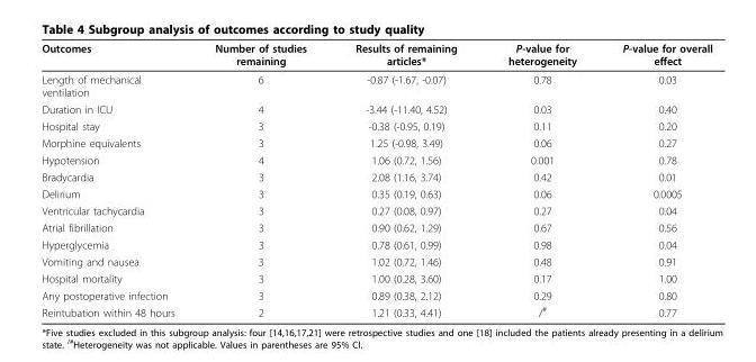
<table><thead><tr><td>Outcomes</td><td>Number of studies remaining</td><td>Results of remaining articles*</td><td>P-value for heterogeneity</td><td>P-value for overall effect</td></tr></thead><tbody><tr><td>Length of mechanical ventilation</td><td>6</td><td>-0.87 (-1.67, -0.07)</td><td>0.78</td><td>0.03</td></tr><tr><td>Duration in ICU</td><td>4</td><td>-3.44 (-11.40, 4.52)</td><td>0.03</td><td>0.40</td></tr><tr><td>Hospital stay</td><td>3</td><td>-0.38 (-0.95, 0.19)</td><td>0.11</td><td>0.20</td></tr><tr><td>Morphine equivalents</td><td>3</td><td>1.25 (-0.98, 3.49)</td><td>0.06</td><td>0.27</td></tr><tr><td>Hypotension</td><td>4</td><td>1.06 (0.72, 1.56)</td><td>0.001</td><td>0.78</td></tr><tr><td>Bradycardia</td><td>3</td><td>2.08 (1.16, 3.74)</td><td>0.42</td><td>0.01</td></tr><tr><td>Delirium</td><td>3</td><td>0.35 (0.19, 0.63)</td><td>0.06</td><td>0.0005</td></tr><tr><td>Ventricular tachycardia</td><td>3</td><td>0.27 (0.08, 0.97)</td><td>0.27</td><td>0.04</td></tr><tr><td>Atrial fibrillation</td><td>3</td><td>0.90 (0.62, 1.29)</td><td>0.67</td><td>0.56</td></tr><tr><td>Hyperglycemia</td><td>3</td><td>0.78 (0.61, 0.99)</td><td>0.98</td><td>0.04</td></tr><tr><td>Vomiting and nausea</td><td>3</td><td>1.02 (0.72, 1.46)</td><td>0.48</td><td>0.91</td></tr><tr><td>Hospital mortality</td><td>3</td><td>1.00 (0.28, 3.60)</td><td>0.17</td><td>1.00</td></tr><tr><td>Any postoperative infection</td><td>3</td><td>0.89 (0.38, 2.12)</td><td>0.29</td><td>0.80</td></tr><tr><td>Reintubation within 48 hours</td><td>2</td><td>1.21 (0.33, 4.41)</td><td>/<sup>#</sup></td><td>0.77</td></tr></tbody></table>